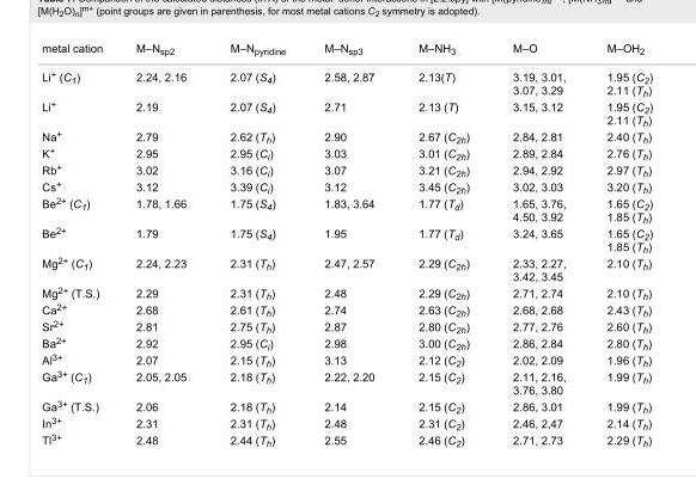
<table><tbody><tr><td>metal cation</td><td>M–N<sub>sp2</sub></td><td>M–N<sub>pyridine</sub></td><td>M–N<sub>sp3</sub></td><td>M–NH<sub>3</sub></td><td>M–O</td><td>M–OH<sub>2</sub></td></tr><tr><td>Li<sup>+</sup> (C<sub>1</sub>)</td><td>2.24, 2.16</td><td>2.07 (S<sub>4</sub>)</td><td>2.58, 2.87</td><td>2.13(T)</td><td>3.19, 3.01, 3.07, 3.29</td><td>1.95 (C<sub>2</sub>) 2.11 (T<sub>h</sub>)</td></tr><tr><td>Li<sup>+</sup></td><td>2.19</td><td>2.07 (S<sub>4</sub>)</td><td>2.71</td><td>2.13 (T)</td><td>3.15, 3.12</td><td>1.95 (C<sub>2</sub>) 2.11 (T<sub>h</sub>)</td></tr><tr><td>Na<sup>+</sup></td><td>2.79</td><td>2.62 (T<sub>h</sub>)</td><td>2.90</td><td>2.67 (C<sub>2h</sub>)</td><td>2.84, 2.81</td><td>2.40 (T<sub>h</sub>)</td></tr><tr><td>K<sup>+</sup></td><td>2.95</td><td>2.95 (C<sub>i</sub>)</td><td>3.03</td><td>3.01 (C<sub>2h</sub>)</td><td>2.89, 2.84</td><td>2.76 (T<sub>h</sub>)</td></tr><tr><td>Rb<sup>+</sup></td><td>3.02</td><td>3.16 (C<sub>i</sub>)</td><td>3.07</td><td>3.21 (C<sub>2h</sub>)</td><td>2.94, 2.92</td><td>2.97 (T<sub>h</sub>)</td></tr><tr><td>Cs<sup>+</sup></td><td>3.12</td><td>3.39 (C<sub>i</sub>)</td><td>3.12</td><td>3.45 (C<sub>2h</sub>)</td><td>3.02, 3.03</td><td>3.20 (T<sub>h</sub>)</td></tr><tr><td>Be<sup>2+</sup> (C<sub>1</sub>)</td><td>1.78, 1.66</td><td>1.75 (S<sub>4</sub>)</td><td>1.83, 3.64</td><td>1.77 (T<sub>d</sub>)</td><td>1.65, 3.76, 4.50, 3.92</td><td>1.65 (C<sub>2</sub>) 1.85 (T<sub>h</sub>)</td></tr><tr><td>Be<sup>2+</sup></td><td>1.79</td><td>1.75 (S<sub>4</sub>)</td><td>1.95</td><td>1.77 (T<sub>d</sub>)</td><td>3.24, 3.65</td><td>1.65 (C<sub>2</sub>) 1.85 (T<sub>h</sub>)</td></tr><tr><td>Mg<sup>2+</sup> (C<sub>1</sub>)</td><td>2.24, 2.23</td><td>2.31 (T<sub>h</sub>)</td><td>2.47, 2.57</td><td>2.29 (C<sub>2h</sub>)</td><td>2.33, 2.27, 3.42, 3.45</td><td>2.10 (T<sub>h</sub>)</td></tr><tr><td>Mg<sup>2+</sup> (T.S.)</td><td>2.29</td><td>2.31 (T<sub>h</sub>)</td><td>2.48</td><td>2.29 (C<sub>2h</sub>)</td><td>2.71, 2.74</td><td>2.10 (T<sub>h</sub>)</td></tr><tr><td>Ca<sup>2+</sup></td><td>2.68</td><td>2.61 (T<sub>h</sub>)</td><td>2.74</td><td>2.63 (C<sub>2h</sub>)</td><td>2.68, 2.68</td><td>2.43 (T<sub>h</sub>)</td></tr><tr><td>Sr<sup>2+</sup></td><td>2.81</td><td>2.75 (T<sub>h</sub>)</td><td>2.87</td><td>2.80 (C<sub>2h</sub>)</td><td>2.77, 2.76</td><td>2.60 (T<sub>h</sub>)</td></tr><tr><td>Ba<sup>2+</sup></td><td>2.92</td><td>2.95 (C<sub>i</sub>)</td><td>2.98</td><td>3.00 (C<sub>2h</sub>)</td><td>2.86, 2.84</td><td>2.80 (T<sub>h</sub>)</td></tr><tr><td>Al<sup>3+</sup></td><td>2.07</td><td>2.15 (T<sub>h</sub>)</td><td>3.13</td><td>2.12 (C<sub>2</sub>)</td><td>2.02, 2.09</td><td>1.96 (T<sub>h</sub>)</td></tr><tr><td>Ga<sup>3+</sup> (C<sub>1</sub>)</td><td>2.05, 2.05</td><td>2.18 (T<sub>h</sub>)</td><td>2.22, 2.20</td><td>2.15 (C<sub>2</sub>)</td><td>2.11, 2.16, 3.76, 3.80</td><td>1.99 (T<sub>h</sub>)</td></tr><tr><td>Ga<sup>3+</sup> (T.S.)</td><td>2.06</td><td>2.18 (T<sub>h</sub>)</td><td>2.14</td><td>2.15 (C<sub>2</sub>)</td><td>2.86, 3.01</td><td>1.99 (T<sub>h</sub>)</td></tr><tr><td>In<sup>3+</sup></td><td>2.31</td><td>2.31 (T<sub>h</sub>)</td><td>2.48</td><td>2.31 (C<sub>2</sub>)</td><td>2.46, 2,47</td><td>2.14 (T<sub>h</sub>)</td></tr><tr><td>Tl<sup>3+</sup></td><td>2.48</td><td>2.44 (T<sub>h</sub>)</td><td>2.55</td><td>2.46 (C<sub>2</sub>)</td><td>2.71, 2.73</td><td>2.29 (T<sub>h</sub>)</td></tr></tbody></table>